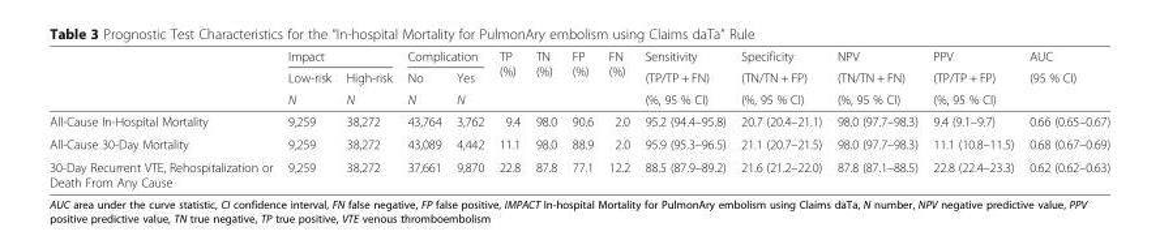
<table><thead><tr><td rowspan="3"></td><td colspan="2">Impact</td><td colspan="2">Complication</td><td rowspan="3">TP (%)</td><td rowspan="3">TN (%)</td><td rowspan="3">FP (%)</td><td rowspan="3">FN (%)</td><td rowspan="3">Sensitivity (TP/TP + FN) (%, 95 % CI)</td><td rowspan="3">Specificity (TN/TN + FP) (%, 95 % CI)</td><td rowspan="3">NPV (TN/TN + FN) (%, 95 % CI)</td><td rowspan="3">PPV (TP/TP + FP) (%, 95 % CI)</td><td rowspan="3">AUC (95 % CI)</td></tr><tr><td rowspan="2">Low-risk N</td><td rowspan="2">High-risk N</td><td rowspan="2">No N</td><td rowspan="2">Yes N</td></tr><tr></tr></thead><tbody><tr><td>All-Cause In-Hospital Mortality</td><td>9,259</td><td>38,272</td><td>43,764</td><td>3,762</td><td>9.4</td><td>98.0</td><td>90.6</td><td>2.0</td><td>95.2 (94.4–95.8)</td><td>20.7 (20.4–21.1)</td><td>98.0 (97.7–98.3)</td><td>9.4 (9.1–9.7)</td><td>0.66 (0.65–0.67)</td></tr><tr><td>All-Cause 30-Day Mortality</td><td>9,259</td><td>38,272</td><td>43,089</td><td>4,442</td><td>11.1</td><td>98.0</td><td>88.9</td><td>2.0</td><td>95.9 (95.3–96.5)</td><td>21.1 (20.7–21.5)</td><td>98.0 (97.7–98.3)</td><td>11.1 (10.8–11.5)</td><td>0.68 (0.67–0.69)</td></tr><tr><td>30-Day Recurrent VTE, Rehospitalization or Death From Any Cause</td><td>9,259</td><td>38,272</td><td>37,661</td><td>9,870</td><td>22.8</td><td>87.8</td><td>77.1</td><td>12.2</td><td>88.5 (87.9–89.2)</td><td>21.6 (21.2–22.0)</td><td>87.8 (87.1–88.5)</td><td>22.8 (22.4–23.3)</td><td>0.62 (0.62–0.63)</td></tr></tbody></table>